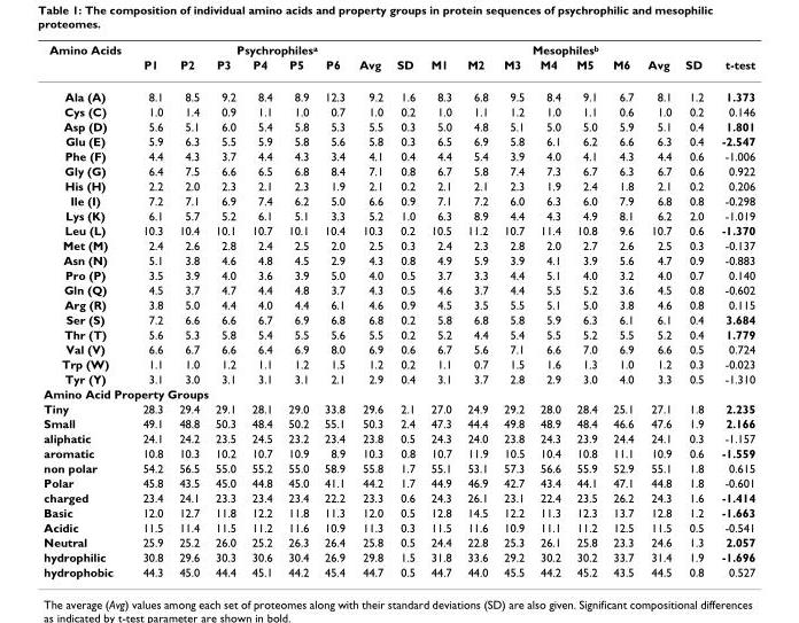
<table><thead><tr><td rowspan="2">Amino Acids</td><td colspan="8">Psychrophiles<sup>a</sup></td><td colspan="8">Mesophiles<sup>b</sup></td><td rowspan="2">t-test</td></tr><tr><td>P1</td><td>P2</td><td>P3</td><td>P4</td><td>P5</td><td>P6</td><td>Avg</td><td>SD</td><td>M1</td><td>M2</td><td>M3</td><td>M4</td><td>M5</td><td>M6</td><td>Avg</td><td>SD</td></tr></thead><tbody><tr><td>Ala (A)</td><td>8.1</td><td>8.5</td><td>9.2</td><td>8.4</td><td>8.9</td><td>12.3</td><td>9.2</td><td>1.6</td><td>8.3</td><td>6.8</td><td>9.5</td><td>8.4</td><td>9.1</td><td>6.7</td><td>8.1</td><td>1.2</td><td>1.373</td></tr><tr><td>Cys (C)</td><td>1.0</td><td>1.4</td><td>0.9</td><td>1.1</td><td>1.0</td><td>0.7</td><td>1.0</td><td>0.2</td><td>1.0</td><td>1.1</td><td>1.2</td><td>1.0</td><td>1.1</td><td>0.6</td><td>1.0</td><td>0.2</td><td>0.146</td></tr><tr><td>Asp (D)</td><td>5.6</td><td>5.1</td><td>6.0</td><td>5.4</td><td>5.8</td><td>5.3</td><td>5.5</td><td>0.3</td><td>5.0</td><td>4.8</td><td>5.1</td><td>5.0</td><td>5.0</td><td>5.9</td><td>5.1</td><td>0.4</td><td>1.801</td></tr><tr><td>Glu (E)</td><td>5.9</td><td>6.3</td><td>5.5</td><td>5.9</td><td>5.8</td><td>5.6</td><td>5.8</td><td>0.3</td><td>6.5</td><td>6.9</td><td>5.8</td><td>6.1</td><td>6.2</td><td>6.6</td><td>6.3</td><td>0.4</td><td>-2.547</td></tr><tr><td>Phe (F)</td><td>4.4</td><td>4.3</td><td>3.7</td><td>4.4</td><td>4.3</td><td>3.4</td><td>4.1</td><td>0.4</td><td>4.4</td><td>5.4</td><td>3.9</td><td>4.0</td><td>4.1</td><td>4.3</td><td>4.4</td><td>0.6</td><td>-1.006</td></tr><tr><td>Gly (G)</td><td>6.4</td><td>7.5</td><td>6.6</td><td>6.5</td><td>6.8</td><td>8.4</td><td>7.1</td><td>0.8</td><td>6.7</td><td>5.8</td><td>7.4</td><td>7.3</td><td>6.7</td><td>6.3</td><td>6.7</td><td>0.6</td><td>0.922</td></tr><tr><td>His (H)</td><td>2.2</td><td>2.0</td><td>2.3</td><td>2.1</td><td>2.3</td><td>1.9</td><td>2.1</td><td>0.2</td><td>2.1</td><td>2.1</td><td>2.3</td><td>1.9</td><td>2.4</td><td>1.8</td><td>2.1</td><td>0.2</td><td>0.206</td></tr><tr><td>Ile (I)</td><td>7.2</td><td>7.1</td><td>6.9</td><td>7.4</td><td>6.2</td><td>5.0</td><td>6.6</td><td>0.9</td><td>7.1</td><td>7.2</td><td>6.0</td><td>6.3</td><td>6.0</td><td>7.9</td><td>6.8</td><td>0.8</td><td>-0.298</td></tr><tr><td>Lys (K)</td><td>6.1</td><td>5.7</td><td>5.2</td><td>6.1</td><td>5.1</td><td>3.3</td><td>5.2</td><td>1.0</td><td>6.3</td><td>8.9</td><td>4.4</td><td>4.3</td><td>4.9</td><td>8.1</td><td>6.2</td><td>2.0</td><td>-1.019</td></tr><tr><td>Leu (L)</td><td>10.3</td><td>10.4</td><td>10.1</td><td>10.7</td><td>10.1</td><td>10.4</td><td>10.3</td><td>0.2</td><td>10.5</td><td>11.2</td><td>10.7</td><td>11.4</td><td>10.8</td><td>9.6</td><td>10.7</td><td>0.6</td><td>-1.370</td></tr><tr><td>Met (M)</td><td>2.4</td><td>2.6</td><td>2.8</td><td>2.4</td><td>2.5</td><td>2.0</td><td>2.5</td><td>0.3</td><td>2.4</td><td>2.3</td><td>2.8</td><td>2.0</td><td>2.7</td><td>2.6</td><td>2.5</td><td>0.3</td><td>-0.137</td></tr><tr><td>Asn (N)</td><td>5.1</td><td>3.8</td><td>4.6</td><td>4.8</td><td>4.5</td><td>2.9</td><td>4.3</td><td>0.8</td><td>4.9</td><td>5.9</td><td>3.9</td><td>4.1</td><td>3.9</td><td>5.6</td><td>4.7</td><td>0.9</td><td>-0.883</td></tr><tr><td>Pro (P)</td><td>3.5</td><td>3.9</td><td>4.0</td><td>3.6</td><td>3.9</td><td>5.0</td><td>4.0</td><td>0.5</td><td>3.7</td><td>3.3</td><td>4.4</td><td>5.1</td><td>4.0</td><td>3.2</td><td>4.0</td><td>0.7</td><td>0.140</td></tr><tr><td>Gln (Q)</td><td>4.5</td><td>3.7</td><td>4.7</td><td>4.4</td><td>4.8</td><td>3.7</td><td>4.3</td><td>0.5</td><td>4.6</td><td>3.7</td><td>4.4</td><td>5.5</td><td>5.2</td><td>3.6</td><td>4.5</td><td>0.8</td><td>-0.602</td></tr><tr><td>Arg (R)</td><td>3.8</td><td>5.0</td><td>4.4</td><td>4.0</td><td>4.4</td><td>6.1</td><td>4.6</td><td>0.9</td><td>4.5</td><td>3.5</td><td>5.5</td><td>5.1</td><td>5.0</td><td>3.8</td><td>4.6</td><td>0.8</td><td>0.115</td></tr><tr><td>Ser (S)</td><td>7.2</td><td>6.6</td><td>6.6</td><td>6.7</td><td>6.9</td><td>6.8</td><td>6.8</td><td>0.2</td><td>5.8</td><td>6.8</td><td>5.8</td><td>5.9</td><td>6.3</td><td>6.1</td><td>6.1</td><td>0.4</td><td>3.684</td></tr><tr><td>Thr (T)</td><td>5.6</td><td>5.3</td><td>5.8</td><td>5.4</td><td>5.5</td><td>5.6</td><td>5.5</td><td>0.2</td><td>5.2</td><td>4.4</td><td>5.4</td><td>5.5</td><td>5.2</td><td>5.5</td><td>5.2</td><td>0.4</td><td>1.779</td></tr><tr><td>Val (V)</td><td>6.6</td><td>6.7</td><td>6.6</td><td>6.4</td><td>6.9</td><td>8.0</td><td>6.9</td><td>0.6</td><td>6.7</td><td>5.6</td><td>7.1</td><td>6.6</td><td>7.0</td><td>6.9</td><td>6.6</td><td>0.5</td><td>0.724</td></tr><tr><td>Trp (W)</td><td>1.1</td><td>1.0</td><td>1.2</td><td>1.1</td><td>1.2</td><td>1.5</td><td>1.2</td><td>0.2</td><td>1.1</td><td>0.7</td><td>1.5</td><td>1.6</td><td>1.3</td><td>1.0</td><td>1.2</td><td>0.3</td><td>-0.023</td></tr><tr><td>Tyr (Y)</td><td>3.1</td><td>3.0</td><td>3.1</td><td>3.1</td><td>3.1</td><td>2.1</td><td>2.9</td><td>0.4</td><td>3.1</td><td>3.7</td><td>2.8</td><td>2.9</td><td>3.0</td><td>4.0</td><td>3.3</td><td>0.5</td><td>-1.310</td></tr><tr><td colspan="18">Amino Acid Property Groups</td></tr><tr><td>Tiny</td><td>28.3</td><td>29.4</td><td>29.1</td><td>28.1</td><td>29.0</td><td>33.8</td><td>29.6</td><td>2.1</td><td>27.0</td><td>24.9</td><td>29.2</td><td>28.0</td><td>28.4</td><td>25.1</td><td>27.1</td><td>1.8</td><td>2.235</td></tr><tr><td>Small</td><td>49.1</td><td>48.8</td><td>50.3</td><td>48.4</td><td>50.2</td><td>55.1</td><td>50.3</td><td>2.4</td><td>47.3</td><td>44.4</td><td>49.8</td><td>48.9</td><td>48.4</td><td>46.6</td><td>47.6</td><td>1.9</td><td>2.166</td></tr><tr><td>aliphatic</td><td>24.1</td><td>24.2</td><td>23.5</td><td>24.5</td><td>23.2</td><td>23.4</td><td>23.8</td><td>0.5</td><td>24.3</td><td>24.0</td><td>23.8</td><td>24.3</td><td>23.9</td><td>24.4</td><td>24.1</td><td>0.3</td><td>-1.157</td></tr><tr><td>aromatic</td><td>10.8</td><td>10.3</td><td>10.2</td><td>10.7</td><td>10.9</td><td>8.9</td><td>10.3</td><td>0.8</td><td>10.7</td><td>11.9</td><td>10.5</td><td>10.4</td><td>10.8</td><td>11.1</td><td>10.9</td><td>0.6</td><td>-1.559</td></tr><tr><td>non polar</td><td>54.2</td><td>56.5</td><td>55.0</td><td>55.2</td><td>55.0</td><td>58.9</td><td>55.8</td><td>1.7</td><td>55.1</td><td>53.1</td><td>57.3</td><td>56.6</td><td>55.9</td><td>52.9</td><td>55.1</td><td>1.8</td><td>0.615</td></tr><tr><td>Polar</td><td>45.8</td><td>43.5</td><td>45.0</td><td>44.8</td><td>45.0</td><td>41.1</td><td>44.2</td><td>1.7</td><td>44.9</td><td>46.9</td><td>42.7</td><td>43.4</td><td>44.1</td><td>47.1</td><td>44.8</td><td>1.8</td><td>-0.601</td></tr><tr><td>charged</td><td>23.4</td><td>24.1</td><td>23.3</td><td>23.4</td><td>23.4</td><td>22.2</td><td>23.3</td><td>0.6</td><td>24.3</td><td>26.1</td><td>23.1</td><td>22.4</td><td>23.5</td><td>26.2</td><td>24.3</td><td>1.6</td><td>-1.414</td></tr><tr><td>Basic</td><td>12.0</td><td>12.7</td><td>11.8</td><td>12.2</td><td>11.8</td><td>11.3</td><td>12.0</td><td>0.5</td><td>12.8</td><td>14.5</td><td>12.2</td><td>11.3</td><td>12.3</td><td>13.7</td><td>12.8</td><td>1.2</td><td>-1.663</td></tr><tr><td>Acidic</td><td>11.5</td><td>11.4</td><td>11.5</td><td>11.2</td><td>11.6</td><td>10.9</td><td>11.3</td><td>0.3</td><td>11.5</td><td>11.6</td><td>10.9</td><td>11.1</td><td>11.2</td><td>12.5</td><td>11.5</td><td>0.5</td><td>-0.541</td></tr><tr><td>Neutral</td><td>25.9</td><td>25.2</td><td>26.0</td><td>25.2</td><td>26.3</td><td>26.4</td><td>25.8</td><td>0.5</td><td>24.4</td><td>22.8</td><td>25.3</td><td>26.1</td><td>25.8</td><td>23.3</td><td>24.6</td><td>1.3</td><td>2.057</td></tr><tr><td>hydrophilic</td><td>30.8</td><td>29.6</td><td>30.3</td><td>30.6</td><td>30.4</td><td>26.9</td><td>29.8</td><td>1.5</td><td>31.8</td><td>33.6</td><td>29.2</td><td>30.2</td><td>30.2</td><td>33.7</td><td>31.4</td><td>1.9</td><td>-1.696</td></tr><tr><td>hydrophobic</td><td>44.3</td><td>45.0</td><td>44.4</td><td>45.1</td><td>44.2</td><td>45.4</td><td>44.7</td><td>0.5</td><td>44.7</td><td>44.0</td><td>45.5</td><td>44.2</td><td>45.2</td><td>43.5</td><td>44.5</td><td>0.8</td><td>0.527</td></tr></tbody></table>